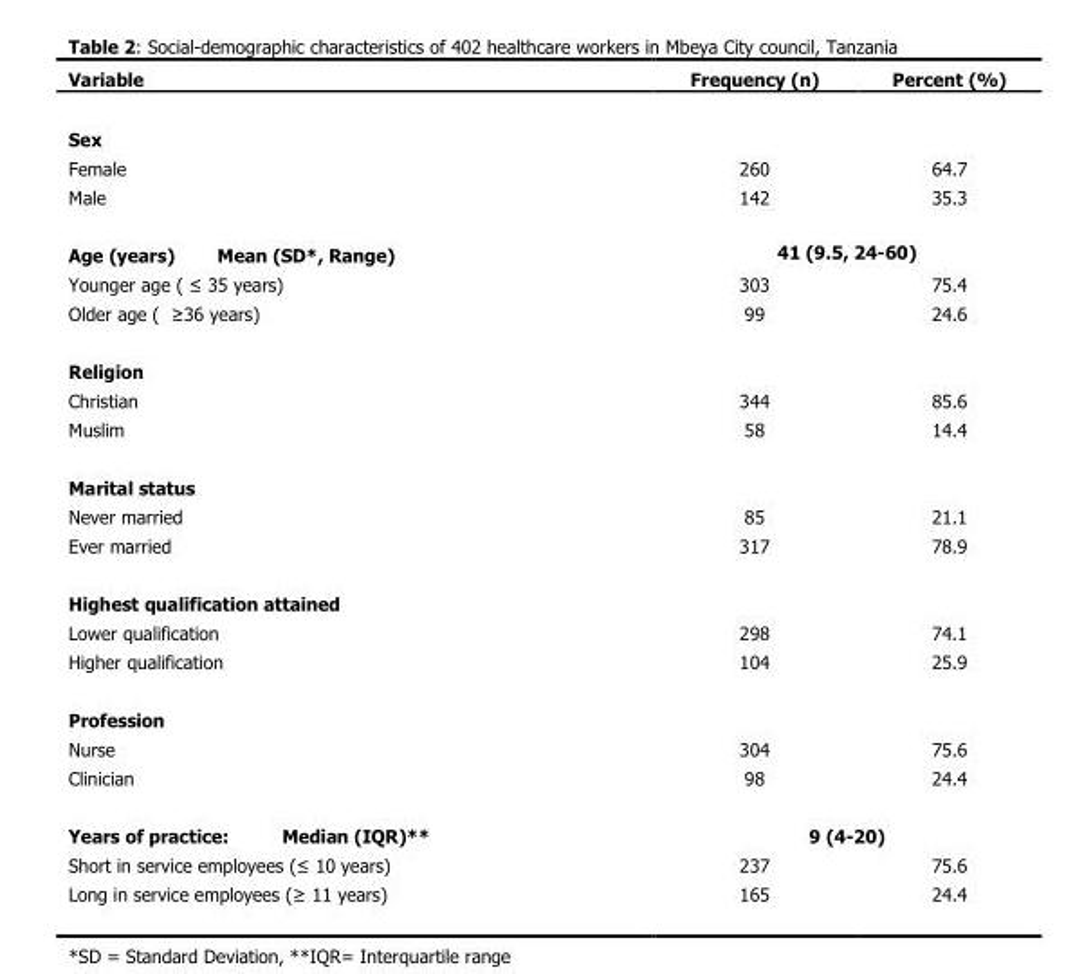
<table><thead><tr><td>Variable</td><td>Frequency (n)</td><td>Percent (%)</td></tr></thead><tbody><tr><td colspan="3">Sex</td></tr><tr><td>Female</td><td>260</td><td>64.7</td></tr><tr><td>Male</td><td>142</td><td>35.3</td></tr><tr><td>Age (years) Mean (SD*, Range)</td><td colspan="2">41 (9.5, 24-60)</td></tr><tr><td>Younger age ( ≤ 35 years)</td><td>303</td><td>75.4</td></tr><tr><td>Older age ( ≥36 years)</td><td>99</td><td>24.6</td></tr><tr><td colspan="3">Religion</td></tr><tr><td>Christian</td><td>344</td><td>85.6</td></tr><tr><td>Muslim</td><td>58</td><td>14.4</td></tr><tr><td colspan="3">Marital status</td></tr><tr><td>Never married</td><td>85</td><td>21.1</td></tr><tr><td>Ever married</td><td>317</td><td>78.9</td></tr><tr><td colspan="3">Highest qualification attained</td></tr><tr><td>Lower qualification</td><td>298</td><td>74.1</td></tr><tr><td>Higher qualification</td><td>104</td><td>25.9</td></tr><tr><td colspan="3">Profession</td></tr><tr><td>Nurse</td><td>304</td><td>75.6</td></tr><tr><td>Clinician</td><td>98</td><td>24.4</td></tr><tr><td>Years of practice: Median (IQR)**</td><td colspan="2">9 (4-20)</td></tr><tr><td>Short in service employees (≤ 10 years)</td><td>237</td><td>75.6</td></tr><tr><td>Long in service employees (≥ 11 years)</td><td>165</td><td>24.4</td></tr></tbody></table>